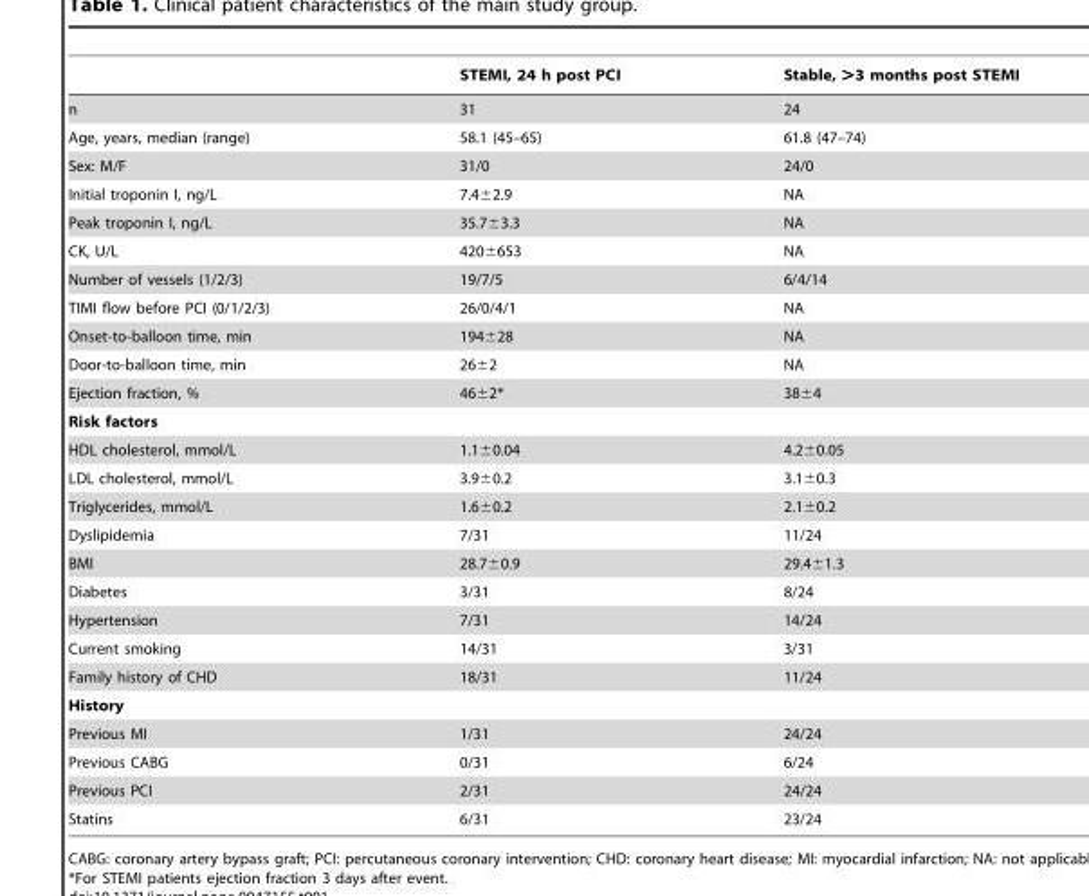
<table><thead><tr><td></td><td>STEMI, 24 h post PCI</td><td>Stable, &gt;3 months post STEMI</td></tr></thead><tbody><tr><td>n</td><td>31</td><td>24</td></tr><tr><td>Age, years, median (range)</td><td>58.1 (45–65)</td><td>61.8 (47–74)</td></tr><tr><td>Sex: M/F</td><td>31/0</td><td>24/0</td></tr><tr><td>Initial troponin I, ng/L</td><td>7.4±2.9</td><td>NA</td></tr><tr><td>Peak troponin I, ng/L</td><td>35.7±3.3</td><td>NA</td></tr><tr><td>CK, U/L</td><td>420±653</td><td>NA</td></tr><tr><td>Number of vessels (1/2/3)</td><td>19/7/5</td><td>6/4/14</td></tr><tr><td>TIMI flow before PCI (0/1/2/3)</td><td>26/0/4/1</td><td>NA</td></tr><tr><td>Onset-to-balloon time, min</td><td>194±28</td><td>NA</td></tr><tr><td>Door-to-balloon time, min</td><td>26±2</td><td>NA</td></tr><tr><td>Ejection fraction, %</td><td>46±2*</td><td>38±4</td></tr><tr><td colspan="3">Risk factors</td></tr><tr><td>HDL cholesterol, mmol/L</td><td>1.1±0.04</td><td>4.2±0.05</td></tr><tr><td>LDL cholesterol, mmol/L</td><td>3.9±0.2</td><td>3.1±0.3</td></tr><tr><td>Triglycerides, mmol/L</td><td>1.6±0.2</td><td>2.1±0.2</td></tr><tr><td>Dyslipidemia</td><td>7/31</td><td>11/24</td></tr><tr><td>BMI</td><td>28.7±0.9</td><td>29.4±1.3</td></tr><tr><td>Diabetes</td><td>3/31</td><td>8/24</td></tr><tr><td>Hypertension</td><td>7/31</td><td>14/24</td></tr><tr><td>Current smoking</td><td>14/31</td><td>3/31</td></tr><tr><td>Family history of CHD</td><td>18/31</td><td>11/24</td></tr><tr><td colspan="3">History</td></tr><tr><td>Previous MI</td><td>1/31</td><td>24/24</td></tr><tr><td>Previous CABG</td><td>0/31</td><td>6/24</td></tr><tr><td>Previous PCI</td><td>2/31</td><td>24/24</td></tr><tr><td>Statins</td><td>6/31</td><td>23/24</td></tr></tbody></table>